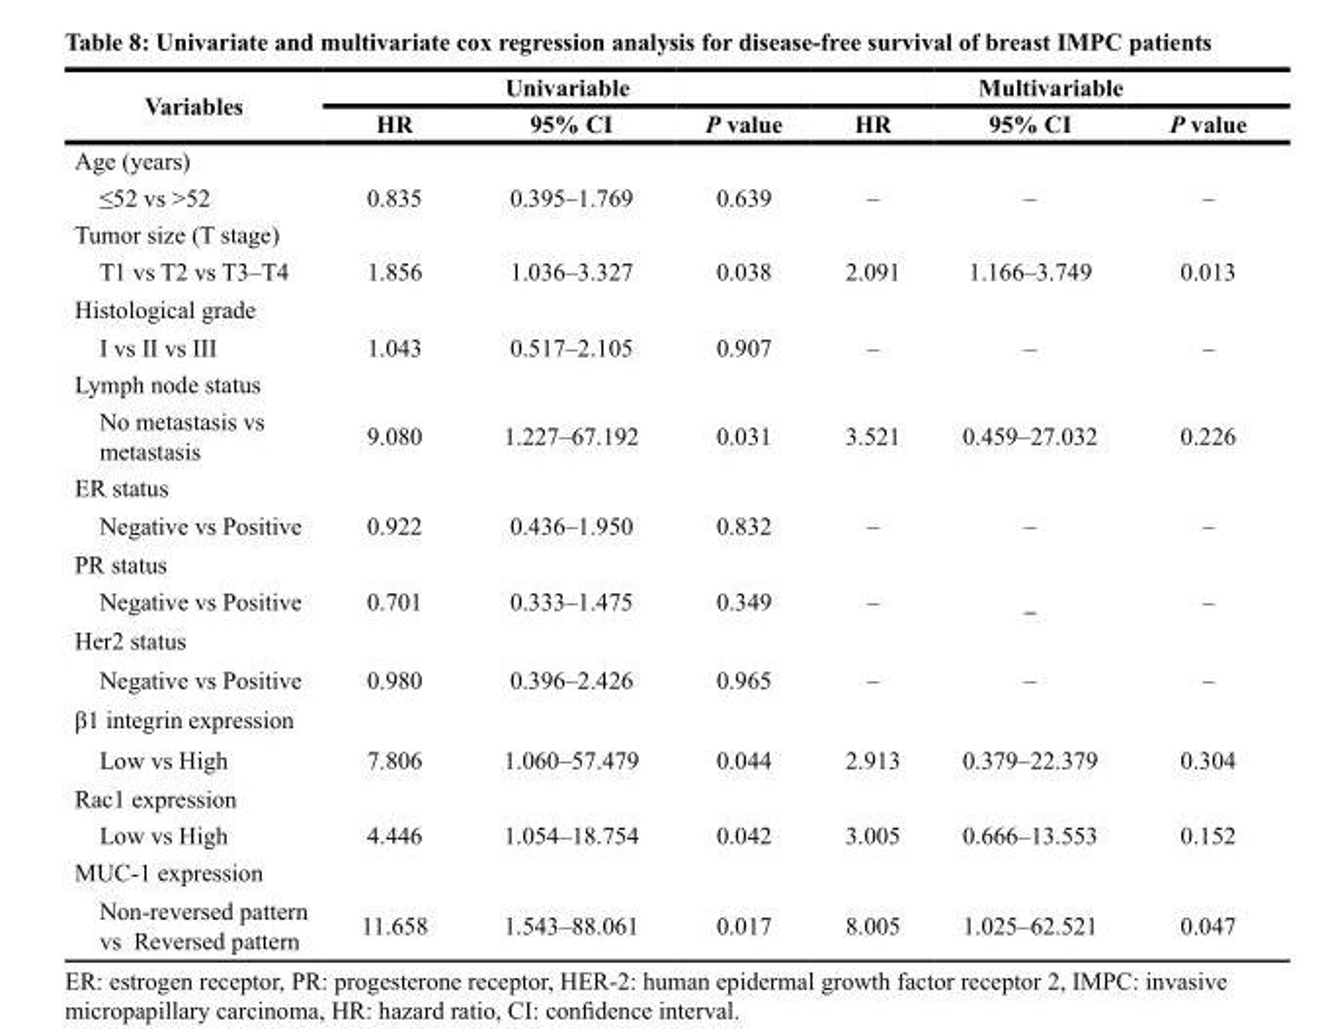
<table><thead><tr><td rowspan="2">Variables</td><td colspan="3">Univariable</td><td colspan="3">Multivariable</td></tr><tr><td>HR</td><td>95% CI</td><td>P value</td><td>HR</td><td>95% CI</td><td>P value</td></tr></thead><tbody><tr><td colspan="7">Age (years)</td></tr><tr><td>≤52 vs &gt;52</td><td>0.835</td><td>0.395–1.769</td><td>0.639</td><td>–</td><td>–</td><td>–</td></tr><tr><td colspan="7">Tumor size (T stage)</td></tr><tr><td>T1 vs T2 vs T3–T4</td><td>1.856</td><td>1.036–3.327</td><td>0.038</td><td>2.091</td><td>1.166–3.749</td><td>0.013</td></tr><tr><td colspan="7">Histological grade</td></tr><tr><td>I vs II vs III</td><td>1.043</td><td>0.517–2.105</td><td>0.907</td><td>–</td><td>–</td><td>–</td></tr><tr><td colspan="7">Lymph node status</td></tr><tr><td>No metastasis vs metastasis</td><td>9.080</td><td>1.227–67.192</td><td>0.031</td><td>3.521</td><td>0.459–27.032</td><td>0.226</td></tr><tr><td colspan="7">ER status</td></tr><tr><td>Negative vs Positive</td><td>0.922</td><td>0.436–1.950</td><td>0.832</td><td>–</td><td>–</td><td>–</td></tr><tr><td colspan="7">PR status</td></tr><tr><td>Negative vs Positive</td><td>0.701</td><td>0.333–1.475</td><td>0.349</td><td>–</td><td>–</td><td>–</td></tr><tr><td colspan="7">Her2 status</td></tr><tr><td>Negative vs Positive</td><td>0.980</td><td>0.396–2.426</td><td>0.965</td><td>–</td><td>–</td><td>–</td></tr><tr><td colspan="7">β1 integrin expression</td></tr><tr><td>Low vs High</td><td>7.806</td><td>1.060–57.479</td><td>0.044</td><td>2.913</td><td>0.379–22.379</td><td>0.304</td></tr><tr><td colspan="7">Rac1 expression</td></tr><tr><td>Low vs High</td><td>4.446</td><td>1.054–18.754</td><td>0.042</td><td>3.005</td><td>0.666–13.553</td><td>0.152</td></tr><tr><td colspan="7">MUC-1 expression</td></tr><tr><td>Non-reversed pattern vs Reversed pattern</td><td>11.658</td><td>1.543–88.061</td><td>0.017</td><td>8.005</td><td>1.025–62.521</td><td>0.047</td></tr></tbody></table>